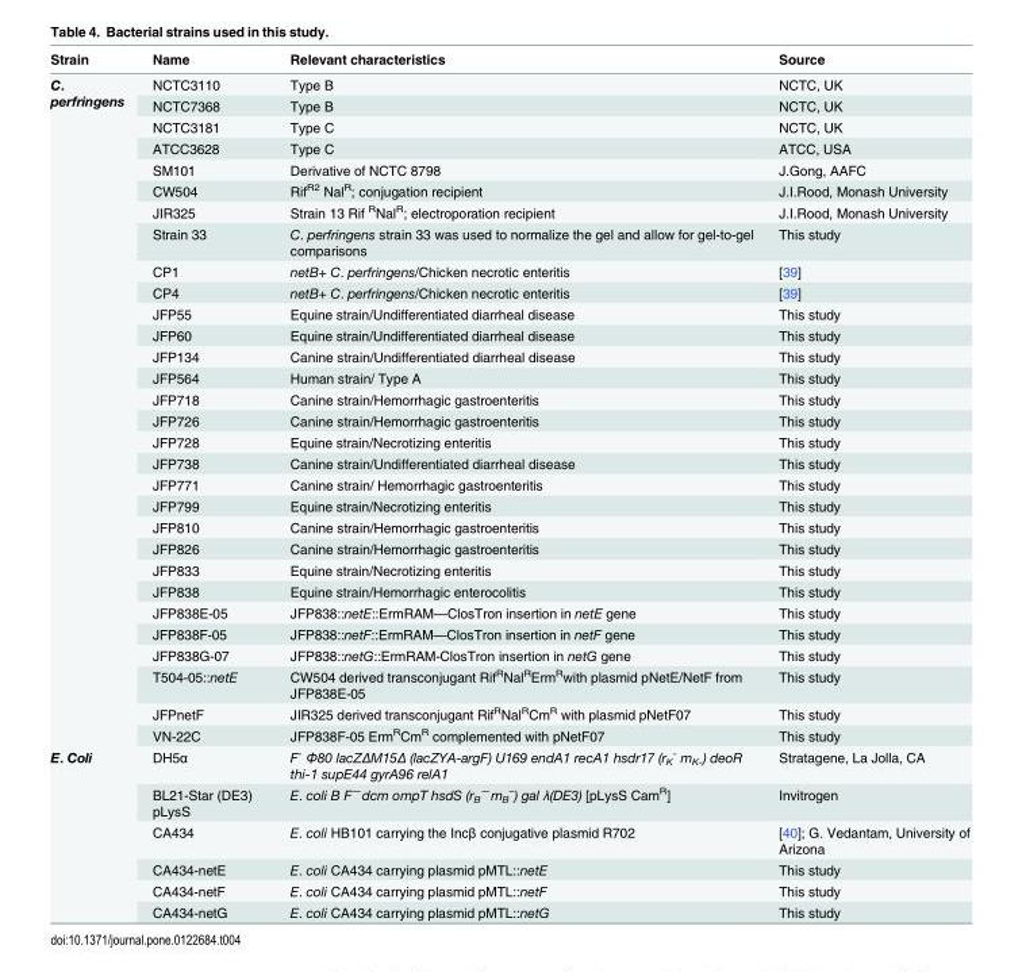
<table><thead><tr><td>Strain</td><td>Name</td><td>Relevant characteristics</td><td>Source</td></tr></thead><tbody><tr><td rowspan="30">C. perfringens</td><td>NCTC3110</td><td>Type B</td><td>NCTC, UK</td></tr><tr><td>NCTC7368</td><td>Type B</td><td>NCTC, UK</td></tr><tr><td>NCTC3181</td><td>Type C</td><td>NCTC, UK</td></tr><tr><td>ATCC3628</td><td>Type C</td><td>ATCC, USA</td></tr><tr><td>SM101</td><td>Derivative of NCTC 8798</td><td>J.Gong, AAFC</td></tr><tr><td>CW504</td><td>Rif<sup>R2</sup> Nal<sup>R</sup>; conjugation recipient</td><td>J.I.Rood, Monash University</td></tr><tr><td>JIR325</td><td>Strain 13 Rif <sup>R</sup>Nal<sup>R</sup>; electroporation recipient</td><td>J.I.Rood, Monash University</td></tr><tr><td>Strain 33</td><td>C. perfringens strain 33 was used to normalize the gel and allow for gel-to-gel comparisons</td><td>This study</td></tr><tr><td>CP1</td><td>netB+ C. perfringens/Chicken necrotic enteritis</td><td>[39]</td></tr><tr><td>CP4</td><td>netB+ C. perfringens/Chicken necrotic enteritis</td><td>[39]</td></tr><tr><td>JFP55</td><td>Equine strain/Undifferentiated diarrheal disease</td><td>This study</td></tr><tr><td>JFP60</td><td>Equine strain/Undifferentiated diarrheal disease</td><td>This study</td></tr><tr><td>JFP134</td><td>Canine strain/Undifferentiated diarrheal disease</td><td>This study</td></tr><tr><td>JFP564</td><td>Human strain/ Type A</td><td>This study</td></tr><tr><td>JFP718</td><td>Canine strain/Hemorrhagic gastroenteritis</td><td>This study</td></tr><tr><td>JFP726</td><td>Canine strain/Hemorrhagic gastroenteritis</td><td>This study</td></tr><tr><td>JFP728</td><td>Equine strain/Necrotizing enteritis</td><td>This study</td></tr><tr><td>JFP738</td><td>Canine strain/Undifferentiated diarrheal disease</td><td>This study</td></tr><tr><td>JFP771</td><td>Canine strain/ Hemorrhagic gastroenteritis</td><td>This study</td></tr><tr><td>JFP799</td><td>Equine strain/Necrotizing enteritis</td><td>This study</td></tr><tr><td>JFP810</td><td>Canine strain/Hemorrhagic gastroenteritis</td><td>This study</td></tr><tr><td>JFP826</td><td>Canine strain/Hemorrhagic gastroenteritis</td><td>This study</td></tr><tr><td>JFP833</td><td>Equine strain/Necrotizing enteritis</td><td>This study</td></tr><tr><td>JFP838</td><td>Equine strain/Hemorrhagic enterocolitis</td><td>This study</td></tr><tr><td>JFP838E-05</td><td>JFP838::netE::ErmRAM—ClosTron insertion in netE gene</td><td>This study</td></tr><tr><td>JFP838F-05</td><td>JFP838::netF::ErmRAM—ClosTron insertion in netF gene</td><td>This study</td></tr><tr><td>JFP838G-07</td><td>JFP838::netG::ErmRAM-ClosTron insertion in netG gene</td><td>This study</td></tr><tr><td>T504-05::netE</td><td>CW504 derived transconjugant Rif<sup>R</sup>Nal<sup>R</sup>Erm<sup>R</sup>with plasmid pNetE/NetF from JFP838E-05</td><td>This study</td></tr><tr><td>JFPnetF</td><td>JIR325 derived transconjugant Rif<sup>R</sup>Nal<sup>R</sup>Cm<sup>R</sup> with plasmid pNetF07</td><td>This study</td></tr><tr><td>VN-22C</td><td>JFP838F-05 Erm<sup>R</sup>Cm<sup>R</sup> complemented with pNetF07</td><td>This study</td></tr><tr><td rowspan="6">E. Coli</td><td>DH5α</td><td>F<sup>-</sup> Φ80 lacZΔM15Δ (lacZYA-argF) U169 endA1 recA1 hsdr17 (r<sub>K</sub> <sup>-</sup> m<sub>K-</sub>) deoR thi-1 supE44 gyrA96 relA1</td><td>Stratagene, La Jolla, CA</td></tr><tr><td>BL21-Star (DE3) pLysS</td><td>E. coli B F<sup>—</sup>dcm ompT hsdS (r<sub>B</sub> <sup>—</sup>m<sub>B</sub> <sup>–</sup>) gal λ(DE3) [pLysS Cam<sup>R</sup>]</td><td>Invitrogen</td></tr><tr><td>CA434</td><td>E. coli HB101 carrying the Incβ conjugative plasmid R702</td><td>[40]; G. Vedantam, University of Arizona</td></tr><tr><td>CA434-netE</td><td>E. coli CA434 carrying plasmid pMTL::netE</td><td>This study</td></tr><tr><td>CA434-netF</td><td>E. coli CA434 carrying plasmid pMTL::netF</td><td>This study</td></tr><tr><td>CA434-netG</td><td>E. coli CA434 carrying plasmid pMTL::netG</td><td>This study</td></tr></tbody></table>